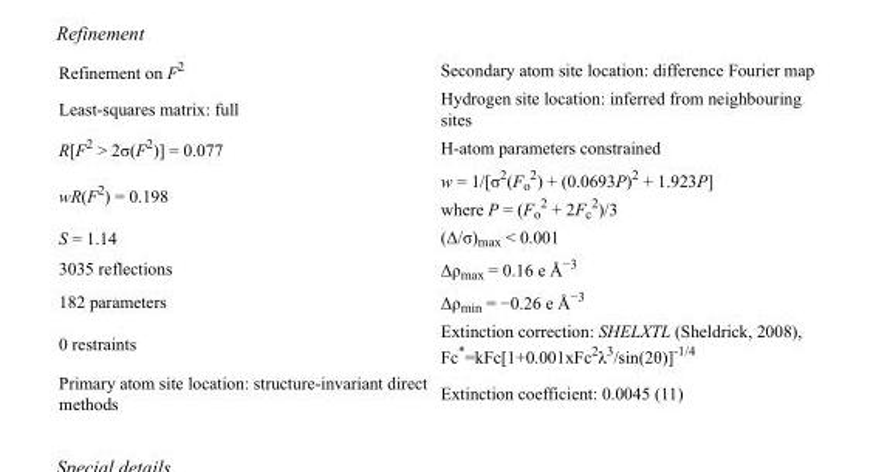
<table><tbody><tr><td>Refinement on F<sup>2</sup></td><td>Secondary atom site location: difference Fourier map</td></tr><tr><td>Least-squares matrix: full</td><td>Hydrogen site location: inferred from neighbouring sites</td></tr><tr><td>R[F<sup>2</sup> &gt; 2σ(F<sup>2</sup>)] = 0.077</td><td>H-atom parameters constrained</td></tr><tr><td>wR(F<sup>2</sup>) = 0.198</td><td>w = 1/[σ<sup>2</sup>(F<sub>o</sub> <sup>2</sup>) + (0.0693P)<sup>2</sup> + 1.923P] where P = (F<sub>o</sub> <sup>2</sup> + 2F<sub>c</sub> <sup>2</sup>)/3</td></tr><tr><td>S = 1.14</td><td>(Δ/σ)<sub>max</sub> &lt; 0.001</td></tr><tr><td>3035 reflections</td><td>Δρ<sub>max</sub> = 0.16 e Å<sup>−3</sup></td></tr><tr><td>182 parameters</td><td>Δρ<sub>min</sub> = −0.26 e Å<sup>−3</sup></td></tr><tr><td>0 restraints</td><td>Extinction correction: SHELXTL (Sheldrick, 2008), Fc*=kFc[1+0.001xFc<sup>2</sup>λ<sup>3</sup>/sin(2θ)]<sup>-1/4</sup></td></tr><tr><td>Primary atom site location: structure-invariant direct methods</td><td>Extinction coefficient: 0.0045 (11)</td></tr></tbody></table>